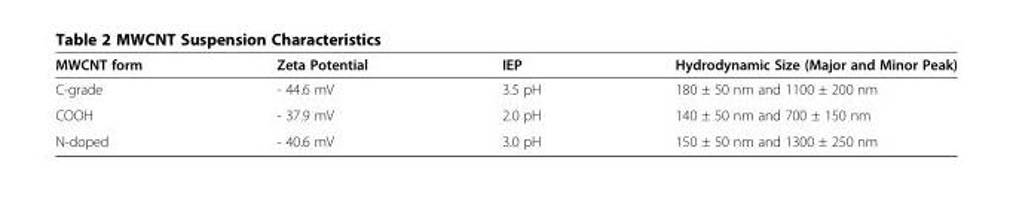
<table><thead><tr><td>MWCNT form</td><td>Zeta Potential</td><td>IEP</td><td>Hydrodynamic Size (Major and Minor Peak)</td></tr></thead><tbody><tr><td>C-grade</td><td>- 44.6 mV</td><td>3.5 pH</td><td>180 ± 50 nm and 1100 ± 200 nm</td></tr><tr><td>COOH</td><td>- 37.9 mV</td><td>2.0 pH</td><td>140 ± 50 nm and 700 ± 150 nm</td></tr><tr><td>N-doped</td><td>- 40.6 mV</td><td>3.0 pH</td><td>150 ± 50 nm and 1300 ± 250 nm</td></tr></tbody></table>